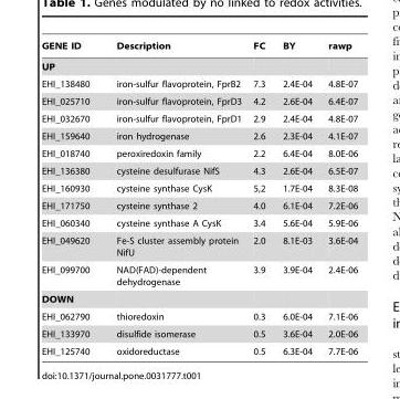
<table><thead><tr><td>GENE ID</td><td>Description</td><td>FC</td><td>BY</td><td>rawp</td></tr></thead><tbody><tr><td colspan="5">UP</td></tr><tr><td>EHI_138480</td><td>iron-sulfur flavoprotein, FprB2</td><td>7.3</td><td>2.4E-04</td><td>4.8E-07</td></tr><tr><td>EHI_025710</td><td>iron-sulfur flavoprotein, FprD3</td><td>4.2</td><td>2.6E-04</td><td>6.4E-07</td></tr><tr><td>EHI_032670</td><td>iron-sulfur flavoprotein, FprD1</td><td>2.9</td><td>2.4E-04</td><td>4.8E-07</td></tr><tr><td>EHI_159640</td><td>iron hydrogenase</td><td>2.6</td><td>2.3E-04</td><td>4.1E-07</td></tr><tr><td>EHI_018740</td><td>peroxiredoxin family</td><td>2.2</td><td>6.4E-04</td><td>8.0E-06</td></tr><tr><td>EHI_136380</td><td>cysteine desulfurase NifS</td><td>4.3</td><td>2.6E-04</td><td>6.5E-07</td></tr><tr><td>EHI_160930</td><td>cysteine synthase CysK</td><td>5,2</td><td>1.7E-04</td><td>8.3E-08</td></tr><tr><td>EHI_171750</td><td>cysteine synthase 2</td><td>4.0</td><td>6.1E-04</td><td>7.2E-06</td></tr><tr><td>EHI_060340</td><td>cysteine synthase A CysK</td><td>3.4</td><td>5.6E-04</td><td>5.9E-06</td></tr><tr><td>EHI_049620</td><td>Fe-S cluster assembly protein NifU</td><td>2.0</td><td>8.1E-03</td><td>3.6E-04</td></tr><tr><td>EHI_099700</td><td>NAD(FAD)-dependent dehydrogenase</td><td>3.9</td><td>3.9E-04</td><td>2.4E-06</td></tr><tr><td colspan="5">DOWN</td></tr><tr><td>EHI_062790</td><td>thioredoxin</td><td>0.3</td><td>6.0E-04</td><td>7.1E-06</td></tr><tr><td>EHI_133970</td><td>disulfide isomerase</td><td>0.5</td><td>3.6E-04</td><td>2.0E-06</td></tr><tr><td>EHI_125740</td><td>oxidoreductase</td><td>0.5</td><td>6.3E-04</td><td>7.7E-06</td></tr></tbody></table>